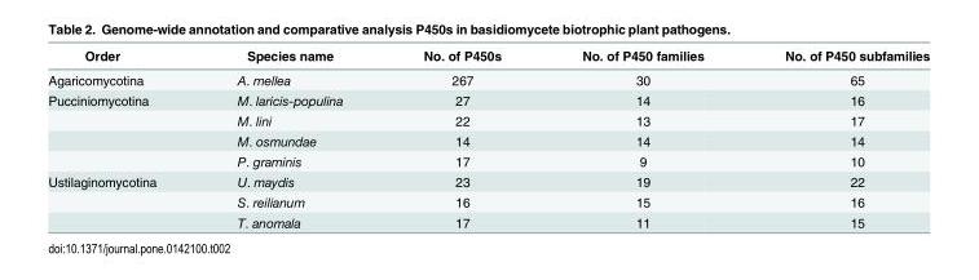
<table><thead><tr><td>Order</td><td>Species name</td><td>No. of P450s</td><td>No. of P450 families</td><td>No. of P450 subfamilies</td></tr></thead><tbody><tr><td>Agaricomycotina</td><td>A. mellea</td><td>267</td><td>30</td><td>65</td></tr><tr><td rowspan="4">Pucciniomycotina</td><td>M. laricis-populina</td><td>27</td><td>14</td><td>16</td></tr><tr><td>M. lini</td><td>22</td><td>13</td><td>17</td></tr><tr><td>M. osmundae</td><td>14</td><td>14</td><td>14</td></tr><tr><td>P. graminis</td><td>17</td><td>9</td><td>10</td></tr><tr><td rowspan="3">Ustilaginomycotina</td><td>U. maydis</td><td>23</td><td>19</td><td>22</td></tr><tr><td>S. reilianum</td><td>16</td><td>15</td><td>16</td></tr><tr><td>T. anomala</td><td>17</td><td>11</td><td>15</td></tr></tbody></table>